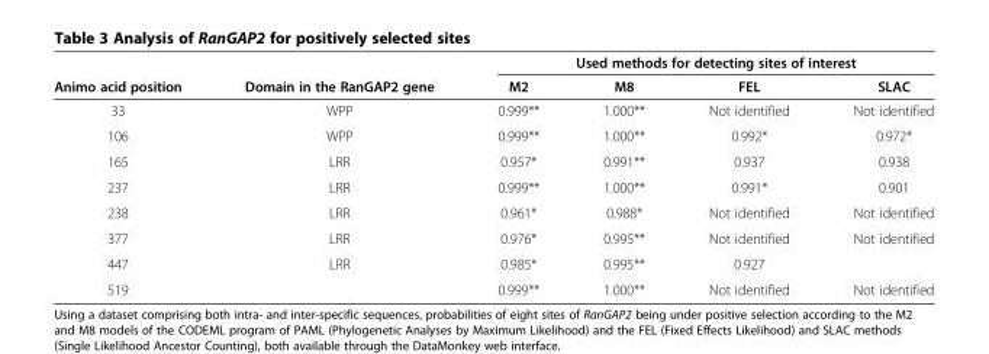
<table><thead><tr><td rowspan="2">Animo acid position</td><td rowspan="2">Domain in the RanGAP2 gene</td><td colspan="4">Used methods for detecting sites of interest</td></tr><tr><td>M2</td><td>M8</td><td>FEL</td><td>SLAC</td></tr></thead><tbody><tr><td>33</td><td>WPP</td><td>0.999**</td><td>1.000**</td><td>Not identified</td><td>Not identified</td></tr><tr><td>106</td><td>WPP</td><td>0.999**</td><td>1.000**</td><td>0.992*</td><td>0.972*</td></tr><tr><td>165</td><td>LRR</td><td>0.957*</td><td>0.991**</td><td>0.937</td><td>0.938</td></tr><tr><td>237</td><td>LRR</td><td>0.999**</td><td>1.000**</td><td>0.991*</td><td>0.901</td></tr><tr><td>238</td><td>LRR</td><td>0.961*</td><td>0.988*</td><td>Not identified</td><td>Not identified</td></tr><tr><td>377</td><td>LRR</td><td>0.976*</td><td>0.995**</td><td>Not identified</td><td>Not identified</td></tr><tr><td>447</td><td>LRR</td><td>0.985*</td><td>0.995**</td><td>0.927</td><td></td></tr><tr><td>519</td><td></td><td>0.999**</td><td>1.000**</td><td>Not identified</td><td>Not identified</td></tr></tbody></table>